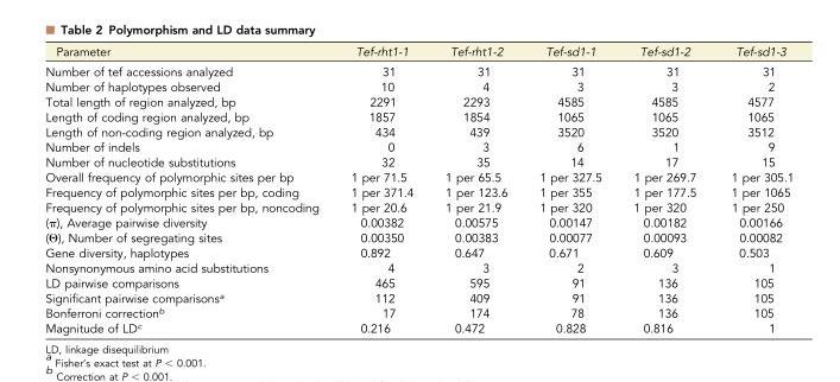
<table><thead><tr><td>Parameter</td><td>Tef-rht1-1</td><td>Tef-rht1-2</td><td>Tef-sd1-1</td><td>Tef-sd1-2</td><td>Tef-sd1-3</td></tr></thead><tbody><tr><td>Number of tef accessions analyzed</td><td>31</td><td>31</td><td>31</td><td>31</td><td>31</td></tr><tr><td>Number of haplotypes observed</td><td>10</td><td>4</td><td>3</td><td>3</td><td>2</td></tr><tr><td>Total length of region analyzed, bp</td><td>2291</td><td>2293</td><td>4585</td><td>4585</td><td>4577</td></tr><tr><td>Length of coding region analyzed, bp</td><td>1857</td><td>1854</td><td>1065</td><td>1065</td><td>1065</td></tr><tr><td>Length of non-coding region analyzed, bp</td><td>434</td><td>439</td><td>3520</td><td>3520</td><td>3512</td></tr><tr><td>Number of indels</td><td>0</td><td>3</td><td>6</td><td>1</td><td>9</td></tr><tr><td>Number of nucleotide substitutions</td><td>32</td><td>35</td><td>14</td><td>17</td><td>15</td></tr><tr><td>Overall frequency of polymorphic sites per bp</td><td>1 per 71.5</td><td>1 per 65.5</td><td>1 per 327.5</td><td>1 per 269.7</td><td>1 per 305.1</td></tr><tr><td>Frequency of polymorphic sites per bp, coding</td><td>1 per 371.4</td><td>1 per 123.6</td><td>1 per 355</td><td>1 per 177.5</td><td>1 per 1065</td></tr><tr><td>Frequency of polymorphic sites per bp, noncoding</td><td>1 per 20.6</td><td>1 per 21.9</td><td>1 per 320</td><td>1 per 320</td><td>1 per 250</td></tr><tr><td>(π), Average pairwise diversity</td><td>0.00382</td><td>0.00575</td><td>0.00147</td><td>0.00182</td><td>0.00166</td></tr><tr><td>(Θ), Number of segregating sites</td><td>0.00350</td><td>0.00383</td><td>0.00077</td><td>0.00093</td><td>0.00082</td></tr><tr><td>Gene diversity, haplotypes</td><td>0.892</td><td>0.647</td><td>0.671</td><td>0.609</td><td>0.503</td></tr><tr><td>Nonsynonymous amino acid substitutions</td><td>4</td><td>3</td><td>2</td><td>3</td><td>1</td></tr><tr><td>LD pairwise comparisons</td><td>465</td><td>595</td><td>91</td><td>136</td><td>105</td></tr><tr><td>Significant pairwise comparisons<sup>a</sup></td><td>112</td><td>409</td><td>91</td><td>136</td><td>105</td></tr><tr><td>Bonferroni correction<sup>b</sup></td><td>17</td><td>174</td><td>78</td><td>136</td><td>105</td></tr><tr><td>Magnitude of LD<sup>c</sup></td><td>0.216</td><td>0.472</td><td>0.828</td><td>0.816</td><td>1</td></tr></tbody></table>